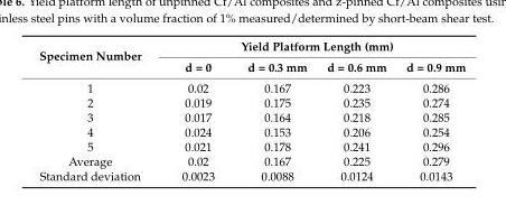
<table><thead><tr><td rowspan="2">Specimen Number</td><td colspan="4">Yield Platform Length (mm)</td></tr><tr><td>d = 0</td><td>d = 0.3 mm</td><td>d = 0.6 mm</td><td>d = 0.9 mm</td></tr></thead><tbody><tr><td>1</td><td>0.02</td><td>0.167</td><td>0.223</td><td>0.286</td></tr><tr><td>2</td><td>0.019</td><td>0.175</td><td>0.235</td><td>0.274</td></tr><tr><td>3</td><td>0.017</td><td>0.164</td><td>0.218</td><td>0.285</td></tr><tr><td>4</td><td>0.024</td><td>0.153</td><td>0.206</td><td>0.254</td></tr><tr><td>5</td><td>0.021</td><td>0.178</td><td>0.241</td><td>0.296</td></tr><tr><td>Average</td><td>0.02</td><td>0.167</td><td>0.225</td><td>0.279</td></tr><tr><td>Standard deviation</td><td>0.0023</td><td>0.0088</td><td>0.0124</td><td>0.0143</td></tr></tbody></table>